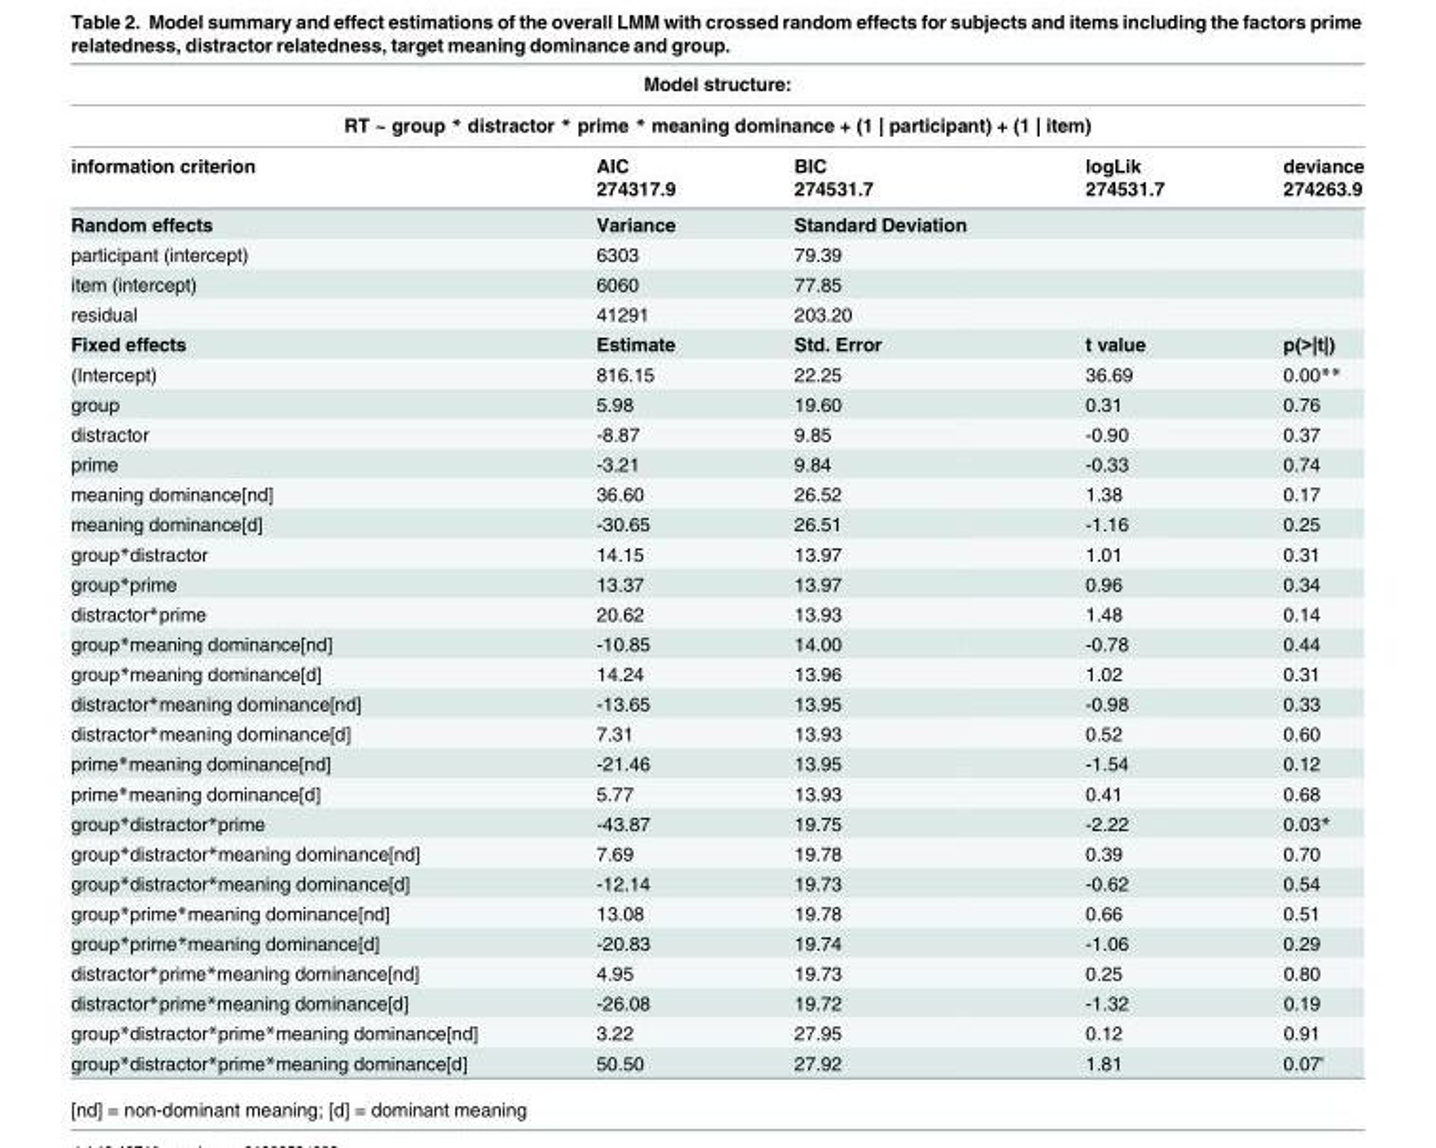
<table><thead><tr><td rowspan="2" colspan="5">Model structure: RT ~ group * distractor * prime * meaning dominance + (1 | participant) + (1 | item)</td></tr><tr></tr><tr><td rowspan="2">information criterion</td><td rowspan="2">AIC 274317.9</td><td rowspan="2">BIC 274531.7</td><td rowspan="2">logLik 274531.7</td><td rowspan="2">deviance 274263.9</td></tr><tr></tr></thead><tbody><tr><td>Random effects</td><td>Variance</td><td>Standard Deviation</td><td></td><td></td></tr><tr><td>participant (intercept)</td><td>6303</td><td>79.39</td><td></td><td></td></tr><tr><td>item (intercept)</td><td>6060</td><td>77.85</td><td></td><td></td></tr><tr><td>residual</td><td>41291</td><td>203.20</td><td></td><td></td></tr><tr><td>Fixed effects</td><td>Estimate</td><td>Std. Error</td><td>t value</td><td>p(&gt;|t|)</td></tr><tr><td>(Intercept)</td><td>816.15</td><td>22.25</td><td>36.69</td><td>0.00**</td></tr><tr><td>group</td><td>5.98</td><td>19.60</td><td>0.31</td><td>0.76</td></tr><tr><td>distractor</td><td>-8.87</td><td>9.85</td><td>-0.90</td><td>0.37</td></tr><tr><td>prime</td><td>-3.21</td><td>9.84</td><td>-0.33</td><td>0.74</td></tr><tr><td>meaning dominance[nd]</td><td>36.60</td><td>26.52</td><td>1.38</td><td>0.17</td></tr><tr><td>meaning dominance[d]</td><td>-30.65</td><td>26.51</td><td>-1.16</td><td>0.25</td></tr><tr><td>group*distractor</td><td>14.15</td><td>13.97</td><td>1.01</td><td>0.31</td></tr><tr><td>group*prime</td><td>13.37</td><td>13.97</td><td>0.96</td><td>0.34</td></tr><tr><td>distractor*prime</td><td>20.62</td><td>13.93</td><td>1.48</td><td>0.14</td></tr><tr><td>group*meaning dominance[nd]</td><td>-10.85</td><td>14.00</td><td>-0.78</td><td>0.44</td></tr><tr><td>group*meaning dominance[d]</td><td>14.24</td><td>13.96</td><td>1.02</td><td>0.31</td></tr><tr><td>distractor*meaning dominance[nd]</td><td>-13.65</td><td>13.95</td><td>-0.98</td><td>0.33</td></tr><tr><td>distractor*meaning dominance[d]</td><td>7.31</td><td>13.93</td><td>0.52</td><td>0.60</td></tr><tr><td>prime*meaning dominance[nd]</td><td>-21.46</td><td>13.95</td><td>-1.54</td><td>0.12</td></tr><tr><td>prime*meaning dominance[d]</td><td>5.77</td><td>13.93</td><td>0.41</td><td>0.68</td></tr><tr><td>group*distractor*prime</td><td>-43.87</td><td>19.75</td><td>-2.22</td><td>0.03*</td></tr><tr><td>group*distractor*meaning dominance[nd]</td><td>7.69</td><td>19.78</td><td>0.39</td><td>0.70</td></tr><tr><td>group*distractor*meaning dominance[d]</td><td>-12.14</td><td>19.73</td><td>-0.62</td><td>0.54</td></tr><tr><td>group*prime*meaning dominance[nd]</td><td>13.08</td><td>19.78</td><td>0.66</td><td>0.51</td></tr><tr><td>group*prime*meaning dominance[d]</td><td>-20.83</td><td>19.74</td><td>-1.06</td><td>0.29</td></tr><tr><td>distractor*prime*meaning dominance[nd]</td><td>4.95</td><td>19.73</td><td>0.25</td><td>0.80</td></tr><tr><td>distractor*prime*meaning dominance[d]</td><td>-26.08</td><td>19.72</td><td>-1.32</td><td>0.19</td></tr><tr><td>group*distractor*prime*meaning dominance[nd]</td><td>3.22</td><td>27.95</td><td>0.12</td><td>0.91</td></tr><tr><td>group*distractor*prime*meaning dominance[d]</td><td>50.50</td><td>27.92</td><td>1.81</td><td>0.07&#x27;</td></tr></tbody></table>